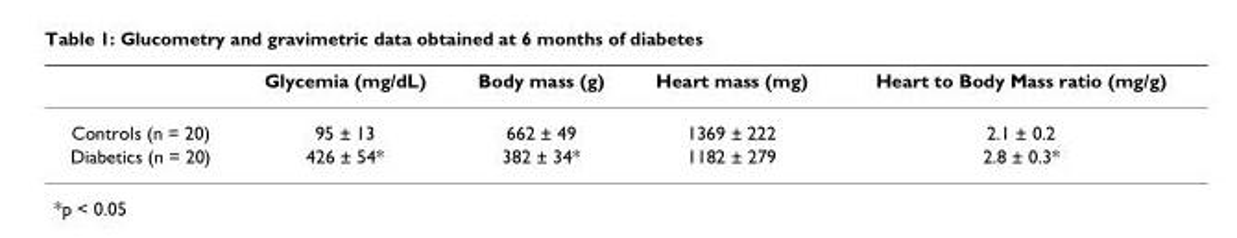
<table><thead><tr><td></td><td>Glycemia (mg/dL)</td><td>Body mass (g)</td><td>Heart mass (mg)</td><td>Heart to Body Mass ratio (mg/g)</td></tr></thead><tbody><tr><td>Controls (n = 20)</td><td>95 ± 13</td><td>662 ± 49</td><td>1369 ± 222</td><td>2.1 ± 0.2</td></tr><tr><td>Diabetics (n = 20)</td><td>426 ± 54*</td><td>382 ± 34*</td><td>1182 ± 279</td><td>2.8 ± 0.3*</td></tr></tbody></table>